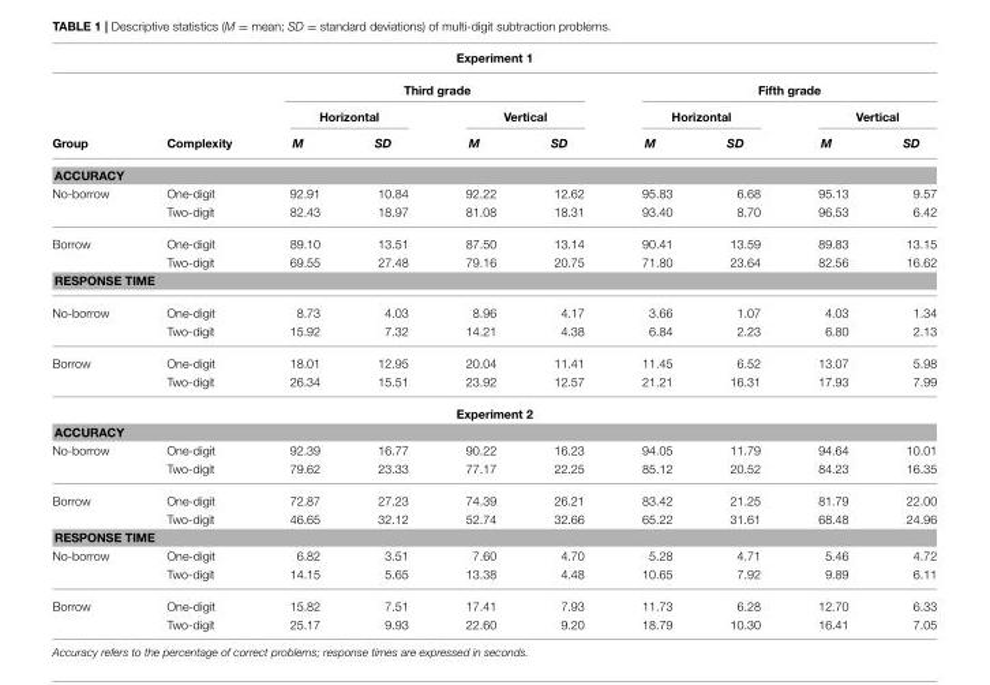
<table><thead><tr><td colspan="10">Experiment 1</td></tr><tr><td rowspan="3">Group</td><td rowspan="3">Complexity</td><td colspan="4">Third grade</td><td colspan="4">Fifth grade</td></tr><tr><td colspan="2">Horizontal</td><td colspan="2">Vertical</td><td colspan="2">Horizontal</td><td colspan="2">Vertical</td></tr><tr><td>M</td><td>SD</td><td>M</td><td>SD</td><td>M</td><td>SD</td><td>M</td><td>SD</td></tr></thead><tbody><tr><td colspan="10">ACCURACY</td></tr><tr><td rowspan="2">No-borrow</td><td>One-digit</td><td>92.91</td><td>10.84</td><td>92.22</td><td>12.62</td><td>95.83</td><td>6.68</td><td>95.13</td><td>9.57</td></tr><tr><td>Two-digit</td><td>82.43</td><td>18.97</td><td>81.08</td><td>18.31</td><td>93.40</td><td>8.70</td><td>96.53</td><td>6.42</td></tr><tr><td rowspan="2">Borrow</td><td>One-digit</td><td>89.10</td><td>13.51</td><td>87.50</td><td>13.14</td><td>90.41</td><td>13.59</td><td>89.83</td><td>13.15</td></tr><tr><td>Two-digit</td><td>69.55</td><td>27.48</td><td>79.16</td><td>20.75</td><td>71.80</td><td>23.64</td><td>82.56</td><td>16.62</td></tr><tr><td colspan="10">RESPONSE TIME</td></tr><tr><td rowspan="2">No-borrow</td><td>One-digit</td><td>8.73</td><td>4.03</td><td>8.96</td><td>4.17</td><td>3.66</td><td>1.07</td><td>4.03</td><td>1.34</td></tr><tr><td>Two-digit</td><td>15.92</td><td>7.32</td><td>14.21</td><td>4.38</td><td>6.84</td><td>2.23</td><td>6.80</td><td>2.13</td></tr><tr><td rowspan="2">Borrow</td><td>One-digit</td><td>18.01</td><td>12.95</td><td>20.04</td><td>11.41</td><td>11.45</td><td>6.52</td><td>13.07</td><td>5.98</td></tr><tr><td>Two-digit</td><td>26.34</td><td>15.51</td><td>23.92</td><td>12.57</td><td>21.21</td><td>16.31</td><td>17.93</td><td>7.99</td></tr><tr><td colspan="10">Experiment 2</td></tr><tr><td colspan="10">ACCURACY</td></tr><tr><td rowspan="2">No-borrow</td><td>One-digit</td><td>92.39</td><td>16.77</td><td>90.22</td><td>16.23</td><td>94.05</td><td>11.79</td><td>94.64</td><td>10.01</td></tr><tr><td>Two-digit</td><td>79.62</td><td>23.33</td><td>77.17</td><td>22.25</td><td>85.12</td><td>20.52</td><td>84.23</td><td>16.35</td></tr><tr><td rowspan="2">Borrow</td><td>One-digit</td><td>72.87</td><td>27.23</td><td>74.39</td><td>26.21</td><td>83.42</td><td>21.25</td><td>81.79</td><td>22.00</td></tr><tr><td>Two-digit</td><td>46.65</td><td>32.12</td><td>52.74</td><td>32.66</td><td>65.22</td><td>31.61</td><td>68.48</td><td>24.96</td></tr><tr><td colspan="10">RESPONSE TIME</td></tr><tr><td rowspan="2">No-borrow</td><td>One-digit</td><td>6.82</td><td>3.51</td><td>7.60</td><td>4.70</td><td>5.28</td><td>4.71</td><td>5.46</td><td>4.72</td></tr><tr><td>Two-digit</td><td>14.15</td><td>5.65</td><td>13.38</td><td>4.48</td><td>10.65</td><td>7.92</td><td>9.89</td><td>6.11</td></tr><tr><td rowspan="2">Borrow</td><td>One-digit</td><td>15.82</td><td>7.51</td><td>17.41</td><td>7.93</td><td>11.73</td><td>6.28</td><td>12.70</td><td>6.33</td></tr><tr><td>Two-digit</td><td>25.17</td><td>9.93</td><td>22.60</td><td>9.20</td><td>18.79</td><td>10.30</td><td>16.41</td><td>7.05</td></tr></tbody></table>